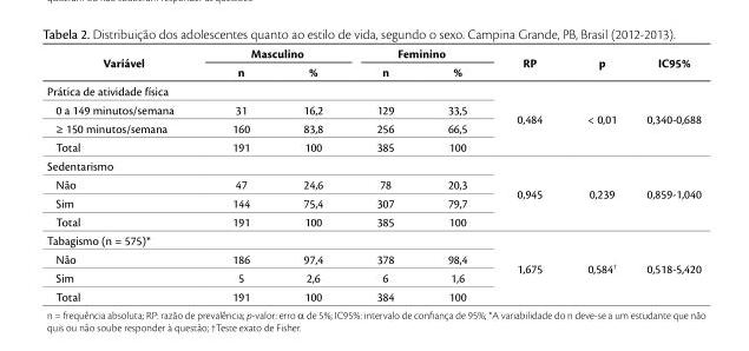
<table><thead><tr><td rowspan="2">Variável</td><td colspan="2">Masculino</td><td colspan="2">Feminino</td><td rowspan="2">RP</td><td rowspan="2">p</td><td rowspan="2">IC95%</td></tr><tr><td>n</td><td>%</td><td>n</td><td>%</td></tr></thead><tbody><tr><td colspan="5">Prática de atividade física</td><td rowspan="4">0,484</td><td rowspan="4">&lt; 0,01</td><td rowspan="4">0,340-0,688</td></tr><tr><td>0 a 149 minutos/semana</td><td>31</td><td>16,2</td><td>129</td><td>33,5</td></tr><tr><td>≥ 150 minutos/semana</td><td>160</td><td>83,8</td><td>256</td><td>66,5</td></tr><tr><td>Total</td><td>191</td><td>100</td><td>385</td><td>100</td></tr><tr><td colspan="5">Sedentarismo</td><td rowspan="4">0,945</td><td rowspan="4">0,239</td><td rowspan="4">0,859-1,040</td></tr><tr><td>Não</td><td>47</td><td>24,6</td><td>78</td><td>20,3</td></tr><tr><td>Sim</td><td>144</td><td>75,4</td><td>307</td><td>79,7</td></tr><tr><td>Total</td><td>191</td><td>100</td><td>385</td><td>100</td></tr><tr><td colspan="5">Tabagismo (n = 575)*</td><td rowspan="4">1,675</td><td rowspan="4">0,584†</td><td rowspan="4">0,518-5,420</td></tr><tr><td>Não</td><td>186</td><td>97,4</td><td>378</td><td>98,4</td></tr><tr><td>Sim</td><td>5</td><td>2,6</td><td>6</td><td>1,6</td></tr><tr><td>Total</td><td>191</td><td>100</td><td>384</td><td>100</td></tr></tbody></table>